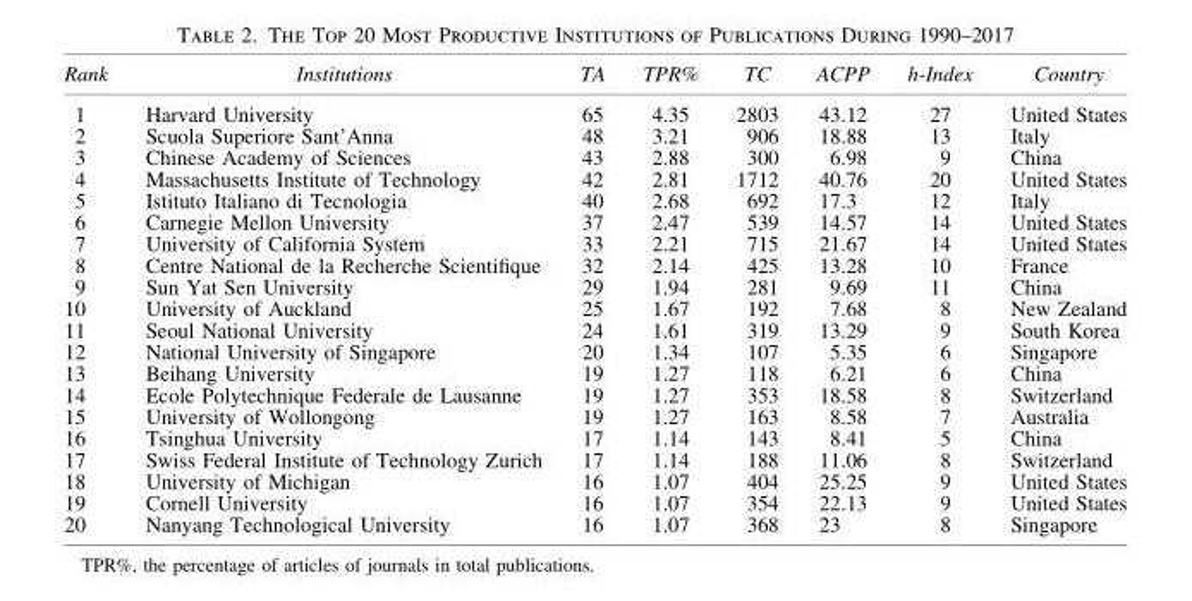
<table><thead><tr><td>Rank</td><td>Institutions</td><td>TA</td><td>TPR%</td><td>TC</td><td>ACPP</td><td>h-Index</td><td>Country</td></tr></thead><tbody><tr><td>1</td><td>Harvard University</td><td>65</td><td>4.35</td><td>2803</td><td>43.12</td><td>27</td><td>United States</td></tr><tr><td>2</td><td>Scuola Superiore Sant’Anna</td><td>48</td><td>3.21</td><td>906</td><td>18.88</td><td>13</td><td>Italy</td></tr><tr><td>3</td><td>Chinese Academy of Sciences</td><td>43</td><td>2.88</td><td>300</td><td>6.98</td><td>9</td><td>China</td></tr><tr><td>4</td><td>Massachusetts Institute of Technology</td><td>42</td><td>2.81</td><td>1712</td><td>40.76</td><td>20</td><td>United States</td></tr><tr><td>5</td><td>Istituto Italiano di Tecnologia</td><td>40</td><td>2.68</td><td>692</td><td>17.3</td><td>12</td><td>Italy</td></tr><tr><td>6</td><td>Carnegie Mellon University</td><td>37</td><td>2.47</td><td>539</td><td>14.57</td><td>14</td><td>United States</td></tr><tr><td>7</td><td>University of California System</td><td>33</td><td>2.21</td><td>715</td><td>21.67</td><td>14</td><td>United States</td></tr><tr><td>8</td><td>Centre National de la Recherche Scientifique</td><td>32</td><td>2.14</td><td>425</td><td>13.28</td><td>10</td><td>France</td></tr><tr><td>9</td><td>Sun Yat Sen University</td><td>29</td><td>1.94</td><td>281</td><td>9.69</td><td>11</td><td>China</td></tr><tr><td>10</td><td>University of Auckland</td><td>25</td><td>1.67</td><td>192</td><td>7.68</td><td>8</td><td>New Zealand</td></tr><tr><td>11</td><td>Seoul National University</td><td>24</td><td>1.61</td><td>319</td><td>13.29</td><td>9</td><td>South Korea</td></tr><tr><td>12</td><td>National University of Singapore</td><td>20</td><td>1.34</td><td>107</td><td>5.35</td><td>6</td><td>Singapore</td></tr><tr><td>13</td><td>Beihang University</td><td>19</td><td>1.27</td><td>118</td><td>6.21</td><td>6</td><td>China</td></tr><tr><td>14</td><td>Ecole Polytechnique Federale de Lausanne</td><td>19</td><td>1.27</td><td>353</td><td>18.58</td><td>8</td><td>Switzerland</td></tr><tr><td>15</td><td>University of Wollongong</td><td>19</td><td>1.27</td><td>163</td><td>8.58</td><td>7</td><td>Australia</td></tr><tr><td>16</td><td>Tsinghua University</td><td>17</td><td>1.14</td><td>143</td><td>8.41</td><td>5</td><td>China</td></tr><tr><td>17</td><td>Swiss Federal Institute of Technology Zurich</td><td>17</td><td>1.14</td><td>188</td><td>11.06</td><td>8</td><td>Switzerland</td></tr><tr><td>18</td><td>University of Michigan</td><td>16</td><td>1.07</td><td>404</td><td>25.25</td><td>9</td><td>United States</td></tr><tr><td>19</td><td>Cornell University</td><td>16</td><td>1.07</td><td>354</td><td>22.13</td><td>9</td><td>United States</td></tr><tr><td>20</td><td>Nanyang Technological University</td><td>16</td><td>1.07</td><td>368</td><td>23</td><td>8</td><td>Singapore</td></tr></tbody></table>